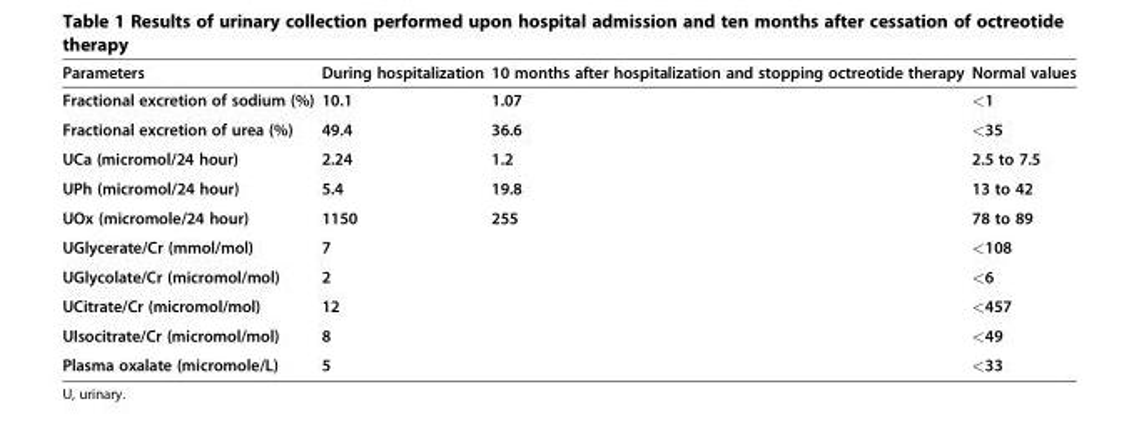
<table><thead><tr><td>Parameters</td><td>During hospitalization</td><td>10 months after hospitalization and stopping octreotide therapy</td><td>Normal values</td></tr></thead><tbody><tr><td>Fractional excretion of sodium (%)</td><td>10.1</td><td>1.07</td><td>&lt;1</td></tr><tr><td>Fractional excretion of urea (%)</td><td>49.4</td><td>36.6</td><td>&lt;35</td></tr><tr><td>UCa (micromol/24 hour)</td><td>2.24</td><td>1.2</td><td>2.5 to 7.5</td></tr><tr><td>UPh (micromol/24 hour)</td><td>5.4</td><td>19.8</td><td>13 to 42</td></tr><tr><td>UOx (micromole/24 hour)</td><td>1150</td><td>255</td><td>78 to 89</td></tr><tr><td>UGlycerate/Cr (mmol/mol)</td><td>7</td><td></td><td>&lt;108</td></tr><tr><td>UGlycolate/Cr (micromol/mol)</td><td>2</td><td></td><td>&lt;6</td></tr><tr><td>UCitrate/Cr (micromol/mol)</td><td>12</td><td></td><td>&lt;457</td></tr><tr><td>UIsocitrate/Cr (micromol/mol)</td><td>8</td><td></td><td>&lt;49</td></tr><tr><td>Plasma oxalate (micromole/L)</td><td>5</td><td></td><td>&lt;33</td></tr></tbody></table>